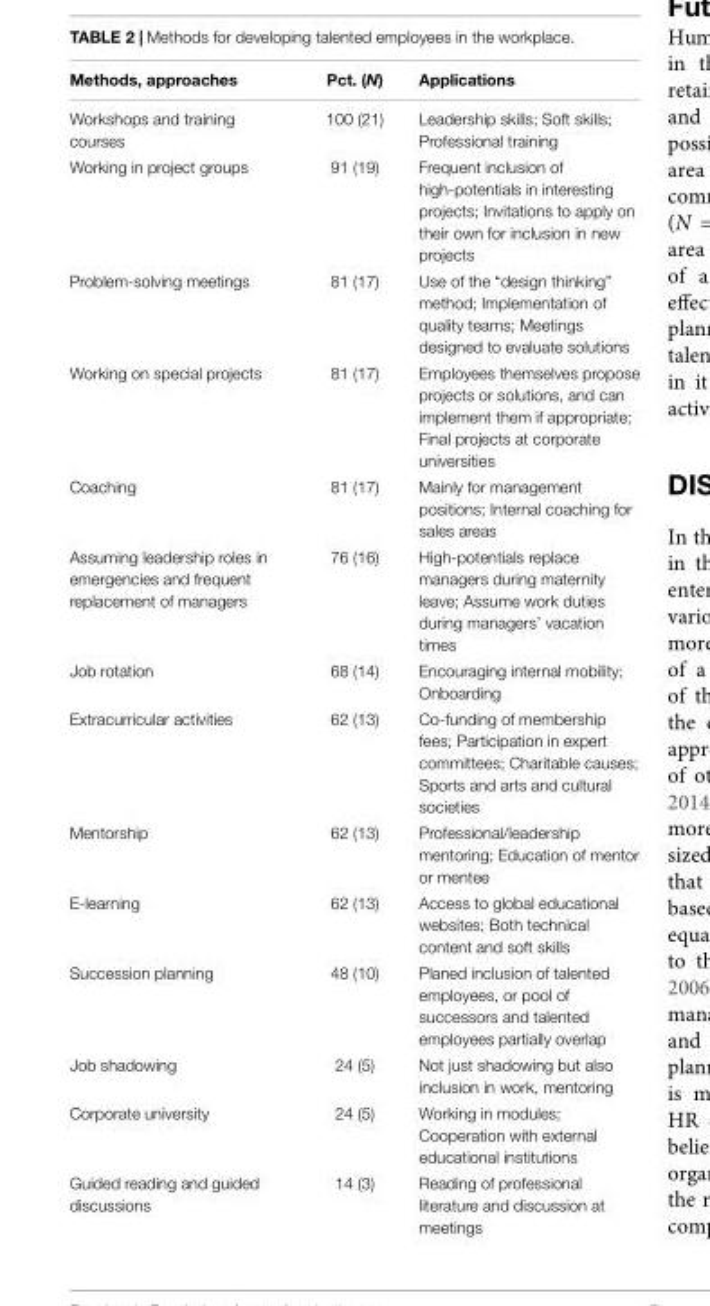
<table><thead><tr><td>Methods, approaches</td><td>Pct. (N)</td><td>Applications</td></tr></thead><tbody><tr><td>Workshops and training courses</td><td>100 (21)</td><td>Leadership skills; Soft skills; Professional training</td></tr><tr><td>Working in project groups</td><td>91 (19)</td><td>Frequent inclusion of high-potentials in interesting projects; Invitations to apply on their own for inclusion in new projects</td></tr><tr><td>Problem-solving meetings</td><td>81 (17)</td><td>Use of the “design thinking” method; Implementation of quality teams; Meetings designed to evaluate solutions</td></tr><tr><td>Working on special projects</td><td>81 (17)</td><td>Employees themselves propose projects or solutions, and can implement them if appropriate; Final projects at corporate universities</td></tr><tr><td>Coaching</td><td>81 (17)</td><td>Mainly for management positions; Internal coaching for sales areas</td></tr><tr><td>Assuming leadership roles in emergencies and frequent replacement of managers</td><td>76 (16)</td><td>High-potentials replace managers during maternity leave; Assume work duties during managers’ vacation times</td></tr><tr><td>Job rotation</td><td>68 (14)</td><td>Encouraging internal mobility; Onboarding</td></tr><tr><td>Extracurricular activities</td><td>62 (13)</td><td>Co-funding of membership fees; Participation in expert committees; Charitable causes; Sports and arts and cultural societies</td></tr><tr><td>Mentorship</td><td>62 (13)</td><td>Professional/leadership mentoring; Education of mentor or mentee</td></tr><tr><td>E-learning</td><td>62 (13)</td><td>Access to global educational websites; Both technical content and soft skills</td></tr><tr><td>Succession planning</td><td>48 (10)</td><td>Planed inclusion of talented employees, or pool of successors and talented employees partially overlap</td></tr><tr><td>Job shadowing</td><td>24 (5)</td><td>Not just shadowing but also inclusion in work, mentoring</td></tr><tr><td>Corporate university</td><td>24 (5)</td><td>Working in modules; Cooperation with external educational institutions</td></tr><tr><td>Guided reading and guided discussions</td><td>14 (3)</td><td>Reading of professional literature and discussion at meetings</td></tr></tbody></table>